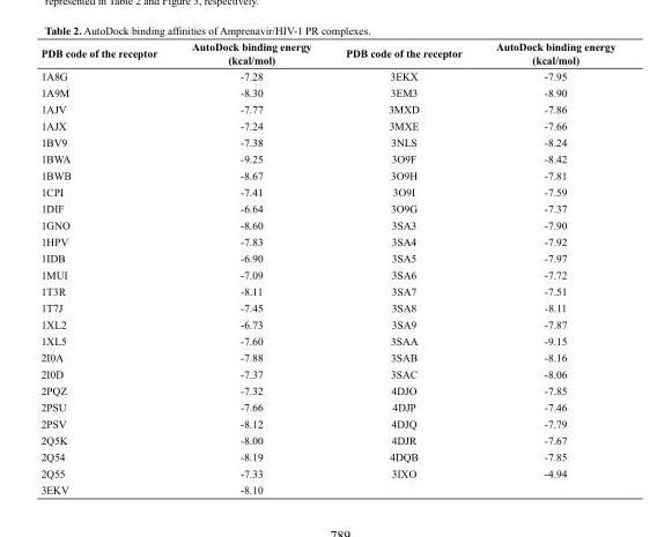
<table><thead><tr><td>PDB code of the receptor</td><td>AutoDock binding energy (kcal/mol)</td><td>PDB code of the receptor</td><td>AutoDock binding energy (kcal/mol)</td></tr></thead><tbody><tr><td>1A8G</td><td>-7.28</td><td>3EKX</td><td>-7.95</td></tr><tr><td>1A9M</td><td>-8.30</td><td>3EM3</td><td>-8.90</td></tr><tr><td>1AJV</td><td>-7.77</td><td>3MXD</td><td>-7.86</td></tr><tr><td>1AJX</td><td>-7.24</td><td>3MXE</td><td>-7.66</td></tr><tr><td>1BV9</td><td>-7.38</td><td>3NLS</td><td>-8.24</td></tr><tr><td>1BWA</td><td>-9.25</td><td>3O9F</td><td>-8.42</td></tr><tr><td>1BWB</td><td>-8.67</td><td>3O9H</td><td>-7.81</td></tr><tr><td>1CPI</td><td>-7.41</td><td>3O9I</td><td>-7.59</td></tr><tr><td>1DIF</td><td>-6.64</td><td>3O9G</td><td>-7.37</td></tr><tr><td>1GNO</td><td>-8.60</td><td>3SA3</td><td>-7.90</td></tr><tr><td>1HPV</td><td>-7.83</td><td>3SA4</td><td>-7.92</td></tr><tr><td>1IDB</td><td>-6.90</td><td>3SA5</td><td>-7.97</td></tr><tr><td>1MUI</td><td>-7.09</td><td>3SA6</td><td>-7.72</td></tr><tr><td>1T3R</td><td>-8.11</td><td>3SA7</td><td>-7.51</td></tr><tr><td>1T7J</td><td>-7.45</td><td>3SA8</td><td>-8.11</td></tr><tr><td>1XL2</td><td>-6.73</td><td>3SA9</td><td>-7.87</td></tr><tr><td>1XL5</td><td>-7.60</td><td>3SAA</td><td>-9.15</td></tr><tr><td>2I0A</td><td>-7.88</td><td>3SAB</td><td>-8.16</td></tr><tr><td>2I0D</td><td>-7.37</td><td>3SAC</td><td>-8.06</td></tr><tr><td>2PQZ</td><td>-7.32</td><td>4DJO</td><td>-7.85</td></tr><tr><td>2PSU</td><td>-7.66</td><td>4DJP</td><td>-7.46</td></tr><tr><td>2PSV</td><td>-8.12</td><td>4DJQ</td><td>-7.79</td></tr><tr><td>2Q5K</td><td>-8.00</td><td>4DJR</td><td>-7.67</td></tr><tr><td>2Q54</td><td>-8.19</td><td>4DQB</td><td>-7.85</td></tr><tr><td>2Q55</td><td>-7.33</td><td>3IXO</td><td>-4.94</td></tr><tr><td>3EKV</td><td>-8.10</td><td></td><td></td></tr></tbody></table>